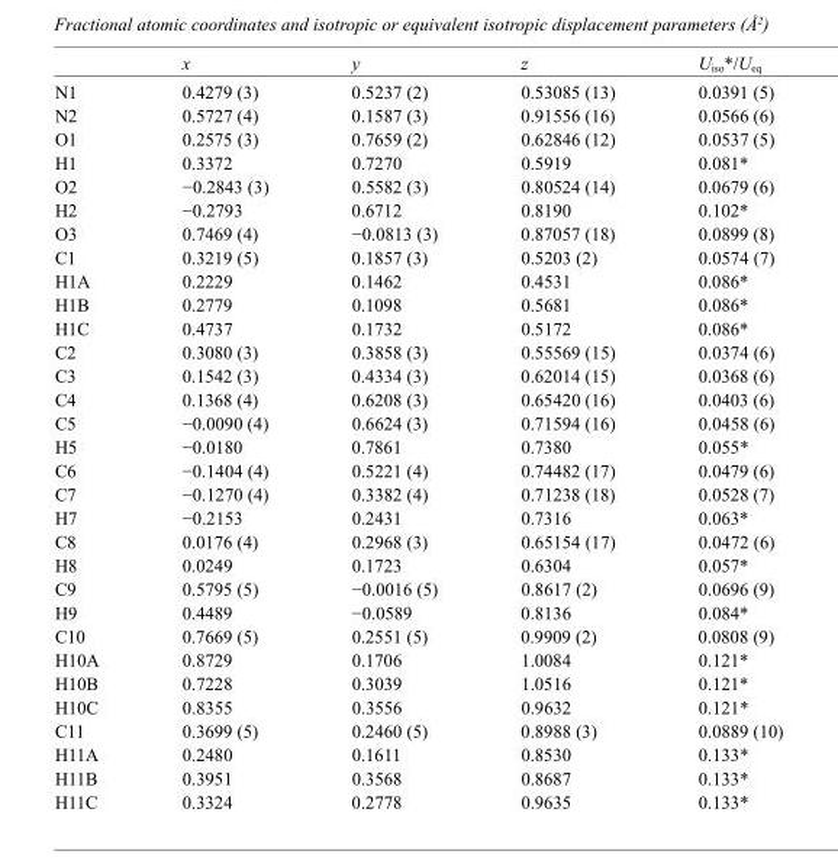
<table><thead><tr><td></td><td>x</td><td>y</td><td>z</td><td>U<sub>iso</sub>*/U<sub>eq</sub></td></tr></thead><tbody><tr><td>N1</td><td>0.4279 (3)</td><td>0.5237 (2)</td><td>0.53085 (13)</td><td>0.0391 (5)</td></tr><tr><td>N2</td><td>0.5727 (4)</td><td>0.1587 (3)</td><td>0.91556 (16)</td><td>0.0566 (6)</td></tr><tr><td>O1</td><td>0.2575 (3)</td><td>0.7659 (2)</td><td>0.62846 (12)</td><td>0.0537 (5)</td></tr><tr><td>H1</td><td>0.3372</td><td>0.7270</td><td>0.5919</td><td>0.081*</td></tr><tr><td>O2</td><td>−0.2843 (3)</td><td>0.5582 (3)</td><td>0.80524 (14)</td><td>0.0679 (6)</td></tr><tr><td>H2</td><td>−0.2793</td><td>0.6712</td><td>0.8190</td><td>0.102*</td></tr><tr><td>O3</td><td>0.7469 (4)</td><td>−0.0813 (3)</td><td>0.87057 (18)</td><td>0.0899 (8)</td></tr><tr><td>C1</td><td>0.3219 (5)</td><td>0.1857 (3)</td><td>0.5203 (2)</td><td>0.0574 (7)</td></tr><tr><td>H1A</td><td>0.2229</td><td>0.1462</td><td>0.4531</td><td>0.086*</td></tr><tr><td>H1B</td><td>0.2779</td><td>0.1098</td><td>0.5681</td><td>0.086*</td></tr><tr><td>H1C</td><td>0.4737</td><td>0.1732</td><td>0.5172</td><td>0.086*</td></tr><tr><td>C2</td><td>0.3080 (3)</td><td>0.3858 (3)</td><td>0.55569 (15)</td><td>0.0374 (6)</td></tr><tr><td>C3</td><td>0.1542 (3)</td><td>0.4334 (3)</td><td>0.62014 (15)</td><td>0.0368 (6)</td></tr><tr><td>C4</td><td>0.1368 (4)</td><td>0.6208 (3)</td><td>0.65420 (16)</td><td>0.0403 (6)</td></tr><tr><td>C5</td><td>−0.0090 (4)</td><td>0.6624 (3)</td><td>0.71594 (16)</td><td>0.0458 (6)</td></tr><tr><td>H5</td><td>−0.0180</td><td>0.7861</td><td>0.7380</td><td>0.055*</td></tr><tr><td>C6</td><td>−0.1404 (4)</td><td>0.5221 (4)</td><td>0.74482 (17)</td><td>0.0479 (6)</td></tr><tr><td>C7</td><td>−0.1270 (4)</td><td>0.3382 (4)</td><td>0.71238 (18)</td><td>0.0528 (7)</td></tr><tr><td>H7</td><td>−0.2153</td><td>0.2431</td><td>0.7316</td><td>0.063*</td></tr><tr><td>C8</td><td>0.0176 (4)</td><td>0.2968 (3)</td><td>0.65154 (17)</td><td>0.0472 (6)</td></tr><tr><td>H8</td><td>0.0249</td><td>0.1723</td><td>0.6304</td><td>0.057*</td></tr><tr><td>C9</td><td>0.5795 (5)</td><td>−0.0016 (5)</td><td>0.8617 (2)</td><td>0.0696 (9)</td></tr><tr><td>H9</td><td>0.4489</td><td>−0.0589</td><td>0.8136</td><td>0.084*</td></tr><tr><td>C10</td><td>0.7669 (5)</td><td>0.2551 (5)</td><td>0.9909 (2)</td><td>0.0808 (9)</td></tr><tr><td>H10A</td><td>0.8729</td><td>0.1706</td><td>1.0084</td><td>0.121*</td></tr><tr><td>H10B</td><td>0.7228</td><td>0.3039</td><td>1.0516</td><td>0.121*</td></tr><tr><td>H10C</td><td>0.8355</td><td>0.3556</td><td>0.9632</td><td>0.121*</td></tr><tr><td>C11</td><td>0.3699 (5)</td><td>0.2460 (5)</td><td>0.8988 (3)</td><td>0.0889 (10)</td></tr><tr><td>H11A</td><td>0.2480</td><td>0.1611</td><td>0.8530</td><td>0.133*</td></tr><tr><td>H11B</td><td>0.3951</td><td>0.3568</td><td>0.8687</td><td>0.133*</td></tr><tr><td>H11C</td><td>0.3324</td><td>0.2778</td><td>0.9635</td><td>0.133*</td></tr></tbody></table>